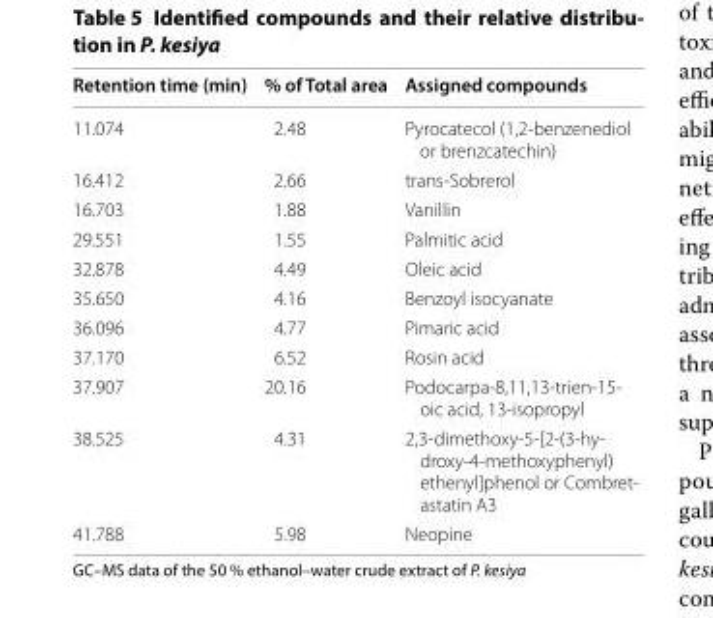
<table><thead><tr><td>Retention time (min)</td><td>% of Total area</td><td>Assigned compounds</td></tr></thead><tbody><tr><td>11.074</td><td>2.48</td><td>Pyrocatecol (1,2-benzenediol or brenzcatechin)</td></tr><tr><td>16.412</td><td>2.66</td><td>trans-Sobrerol</td></tr><tr><td>16.703</td><td>1.88</td><td>Vanillin</td></tr><tr><td>29.551</td><td>1.55</td><td>Palmitic acid</td></tr><tr><td>32.878</td><td>4.49</td><td>Oleic acid</td></tr><tr><td>35.650</td><td>4.16</td><td>Benzoyl isocyanate</td></tr><tr><td>36.096</td><td>4.77</td><td>Pimaric acid</td></tr><tr><td>37.170</td><td>6.52</td><td>Rosin acid</td></tr><tr><td>37.907</td><td>20.16</td><td>Podocarpa-8,11,13-trien-15- oic acid, 13-isopropyl</td></tr><tr><td>38.525</td><td>4.31</td><td>2,3-dimethoxy-5-[2-(3-hy- droxy-4-methoxyphenyl) ethenyl]phenol or Combret- astatin A3</td></tr><tr><td>41.788</td><td>5.98</td><td>Neopine</td></tr></tbody></table>